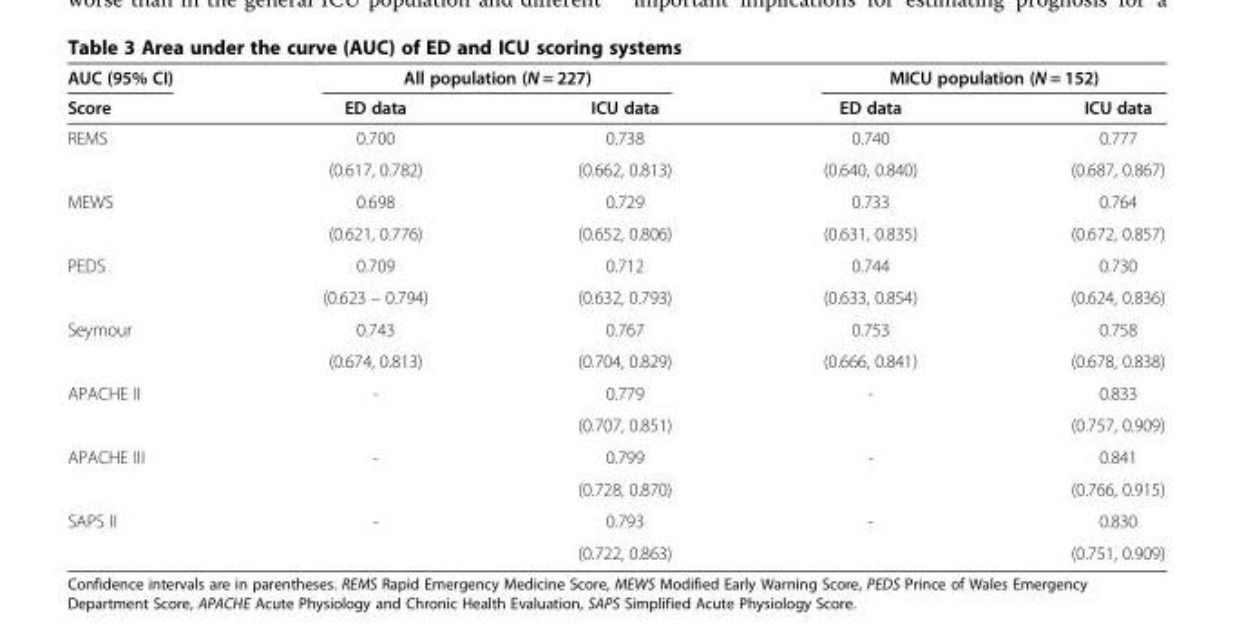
<table><thead><tr><td rowspan="2">AUC (95% CI) Score</td><td colspan="2">All population (N = 227)</td><td colspan="2">MICU population (N = 152)</td></tr><tr><td>ED data</td><td>ICU data</td><td>ED data</td><td>ICU data</td></tr></thead><tbody><tr><td rowspan="2">REMS</td><td>0.700</td><td>0.738</td><td>0.740</td><td>0.777</td></tr><tr><td>(0.617, 0.782)</td><td>(0.662, 0.813)</td><td>(0.640, 0.840)</td><td>(0.687, 0.867)</td></tr><tr><td rowspan="2">MEWS</td><td>0.698</td><td>0.729</td><td>0.733</td><td>0.764</td></tr><tr><td>(0.621, 0.776)</td><td>(0.652, 0.806)</td><td>(0.631, 0.835)</td><td>(0.672, 0.857)</td></tr><tr><td rowspan="2">PEDS</td><td>0.709</td><td>0.712</td><td>0.744</td><td>0.730</td></tr><tr><td>(0.623 – 0.794)</td><td>(0.632, 0.793)</td><td>(0.633, 0.854)</td><td>(0.624, 0.836)</td></tr><tr><td rowspan="2">Seymour</td><td>0.743</td><td>0.767</td><td>0.753</td><td>0.758</td></tr><tr><td>(0.674, 0.813)</td><td>(0.704, 0.829)</td><td>(0.666, 0.841)</td><td>(0.678, 0.838)</td></tr><tr><td rowspan="2">APACHE II</td><td rowspan="2">-</td><td>0.779</td><td rowspan="2">-</td><td>0.833</td></tr><tr><td>(0.707, 0.851)</td><td>(0.757, 0.909)</td></tr><tr><td rowspan="2">APACHE III</td><td rowspan="2">-</td><td>0.799</td><td rowspan="2">-</td><td>0.841</td></tr><tr><td>(0.728, 0.870)</td><td>(0.766, 0.915)</td></tr><tr><td rowspan="2">SAPS II</td><td rowspan="2">-</td><td>0.793</td><td rowspan="2">-</td><td>0.830</td></tr><tr><td>(0.722, 0.863)</td><td>(0.751, 0.909)</td></tr></tbody></table>